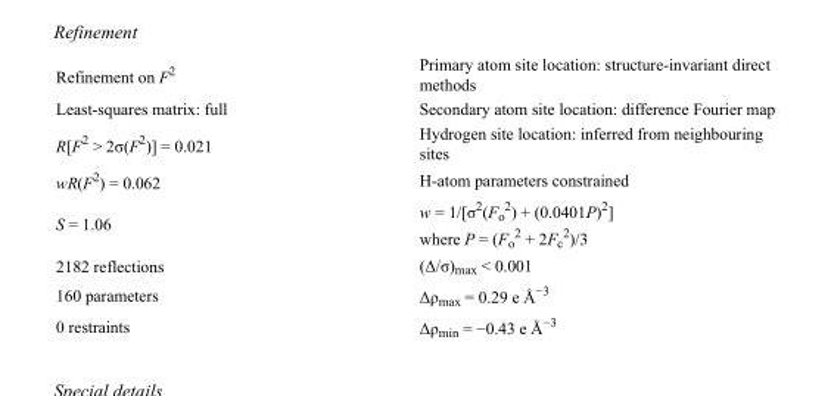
<table><tbody><tr><td>Refinement on F<sup>2</sup></td><td>Primary atom site location: structure-invariant direct methods</td></tr><tr><td>Least-squares matrix: full</td><td>Secondary atom site location: difference Fourier map</td></tr><tr><td>R[F<sup>2</sup> &gt; 2σ(F<sup>2</sup>)] = 0.021</td><td>Hydrogen site location: inferred from neighbouring sites</td></tr><tr><td>wR(F<sup>2</sup>) = 0.062</td><td>H-atom parameters constrained</td></tr><tr><td>S = 1.06</td><td>w = 1/[σ<sup>2</sup>(F<sub>o</sub> <sup>2</sup>) + (0.0401P)<sup>2</sup>] where P = (F<sub>o</sub> <sup>2</sup> + 2F<sub>c</sub> <sup>2</sup>)/3</td></tr><tr><td>2182 reflections</td><td>(Δ/σ)<sub>max</sub> &lt; 0.001</td></tr><tr><td>160 parameters</td><td>Δρ<sub>max</sub> = 0.29 e Å<sup>−3</sup></td></tr><tr><td>0 restraints</td><td>Δρ<sub>min</sub> = −0.43 e Å<sup>−3</sup></td></tr></tbody></table>